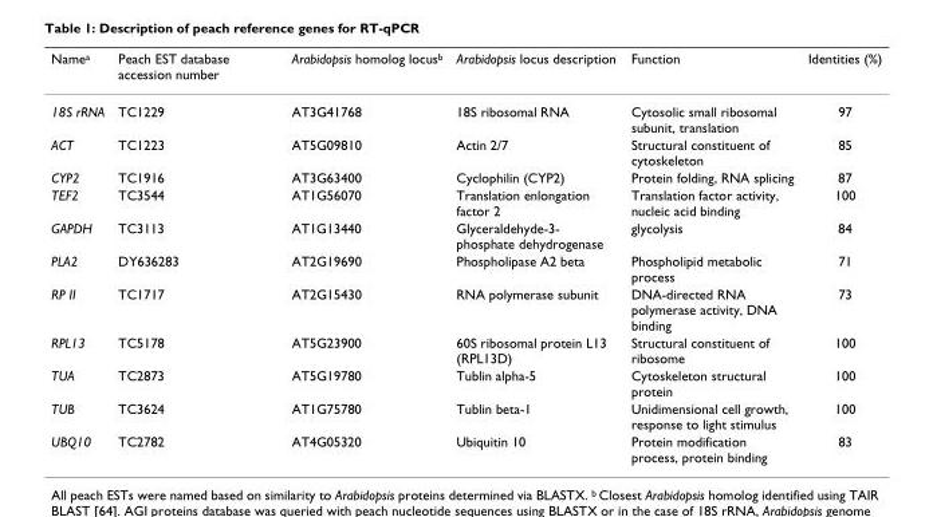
<table><thead><tr><td>Name<sup>a</sup></td><td>Peach EST database accession number</td><td>Arabidopsis homolog locus<sup>b</sup></td><td>Arabidopsis locus description</td><td>Function</td><td>Identities (%)</td></tr></thead><tbody><tr><td>18S rRNA</td><td>TC1229</td><td>AT3G41768</td><td>18S ribosomal RNA</td><td>Cytosolic small ribosomal subunit, translation</td><td>97</td></tr><tr><td>ACT</td><td>TC1223</td><td>AT5G09810</td><td>Actin 2/7</td><td>Structural constituent of cytoskeleton</td><td>85</td></tr><tr><td>CYP2</td><td>TC1916</td><td>AT3G63400</td><td>Cyclophilin (CYP2)</td><td>Protein folding, RNA splicing</td><td>87</td></tr><tr><td>TEF2</td><td>TC3544</td><td>AT1G56070</td><td>Translation enlongation factor 2</td><td>Translation factor activity, nucleic acid binding</td><td>100</td></tr><tr><td>GAPDH</td><td>TC3113</td><td>AT1G13440</td><td>Glyceraldehyde-3- phosphate dehydrogenase</td><td>glycolysis</td><td>84</td></tr><tr><td>PLA2</td><td>DY636283</td><td>AT2G19690</td><td>Phospholipase A2 beta</td><td>Phospholipid metabolic process</td><td>71</td></tr><tr><td>RP II</td><td>TC1717</td><td>AT2G15430</td><td>RNA polymerase subunit</td><td>DNA-directed RNA polymerase activity, DNA binding</td><td>73</td></tr><tr><td>RPL13</td><td>TC5178</td><td>AT5G23900</td><td>60S ribosomal protein L13 (RPL13D)</td><td>Structural constituent of ribosome</td><td>100</td></tr><tr><td>TUA</td><td>TC2873</td><td>AT5G19780</td><td>Tublin alpha-5</td><td>Cytoskeleton structural protein</td><td>100</td></tr><tr><td>TUB</td><td>TC3624</td><td>AT1G75780</td><td>Tublin beta-1</td><td>Unidimensional cell growth, response to light stimulus</td><td>100</td></tr><tr><td>UBQ10</td><td>TC2782</td><td>AT4G05320</td><td>Ubiquitin 10</td><td>Protein modification process, protein binding</td><td>83</td></tr></tbody></table>